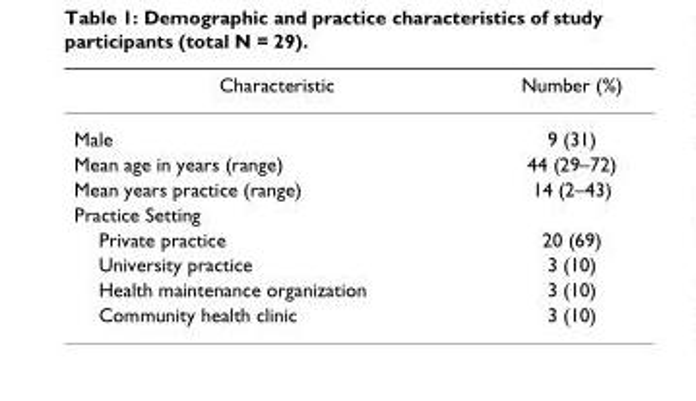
<table><thead><tr><td>Characteristic</td><td>Number (%)</td></tr></thead><tbody><tr><td>Male</td><td>9 (31)</td></tr><tr><td>Mean age in years (range)</td><td>44 (29–72)</td></tr><tr><td>Mean years practice (range)</td><td>14 (2–43)</td></tr><tr><td colspan="2">Practice Setting</td></tr><tr><td>Private practice</td><td>20 (69)</td></tr><tr><td>University practice</td><td>3 (10)</td></tr><tr><td>Health maintenance organization</td><td>3 (10)</td></tr><tr><td>Community health clinic</td><td>3 (10)</td></tr></tbody></table>